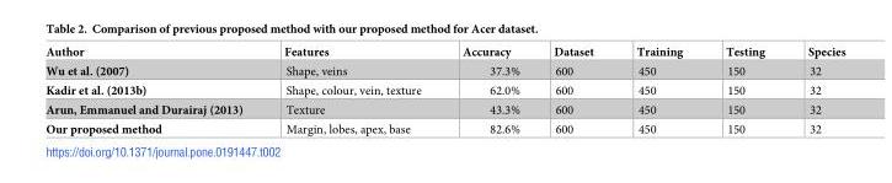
<table><thead><tr><td>Author</td><td>Features</td><td>Accuracy</td><td>Dataset</td><td>Training</td><td>Testing</td><td>Species</td></tr></thead><tbody><tr><td>Wu et al. (2007)</td><td>Shape, veins</td><td>37.3%</td><td>600</td><td>450</td><td>150</td><td>32</td></tr><tr><td>Kadir et al. (2013b)</td><td>Shape, colour, vein, texture</td><td>62.0%</td><td>600</td><td>450</td><td>150</td><td>32</td></tr><tr><td>Arun, Emmanuel and Durairaj (2013)</td><td>Texture</td><td>43.3%</td><td>600</td><td>450</td><td>150</td><td>32</td></tr><tr><td>Our proposed method</td><td>Margin, lobes, apex, base</td><td>82.6%</td><td>600</td><td>450</td><td>150</td><td>32</td></tr></tbody></table>